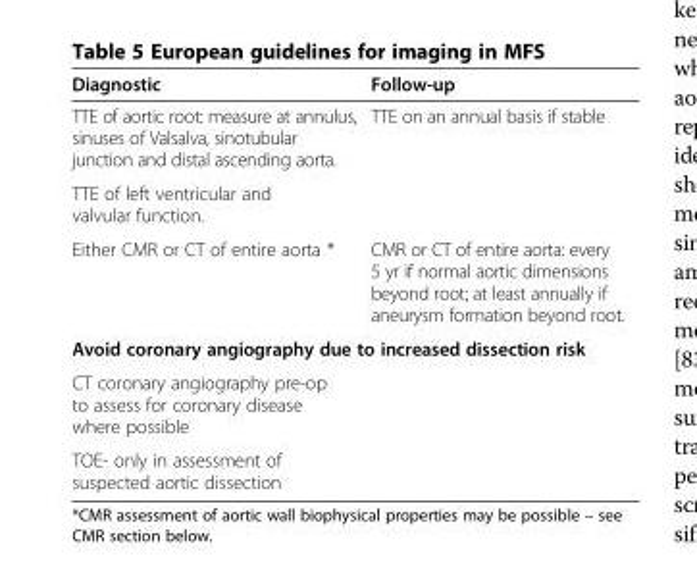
<table><thead><tr><td>Diagnostic</td><td>Follow-up</td></tr></thead><tbody><tr><td>TTE of aortic root: measure at annulus, sinuses of Valsalva, sinotubular junction and distal ascending aorta.</td><td rowspan="2">TTE on an annual basis if stable</td></tr><tr><td>TTE of left ventricular and valvular function.</td></tr><tr><td>Either CMR or CT of entire aorta *</td><td>CMR or CT of entire aorta: every 5 yr if normal aortic dimensions beyond root; at least annually if aneurysm formation beyond root.</td></tr><tr><td colspan="2">Avoid coronary angiography due to increased dissection risk</td></tr><tr><td colspan="2">CT coronary angiography pre-op to assess for coronary disease where possible</td></tr><tr><td>TOE- only in assessment of suspected aortic dissection</td><td></td></tr></tbody></table>